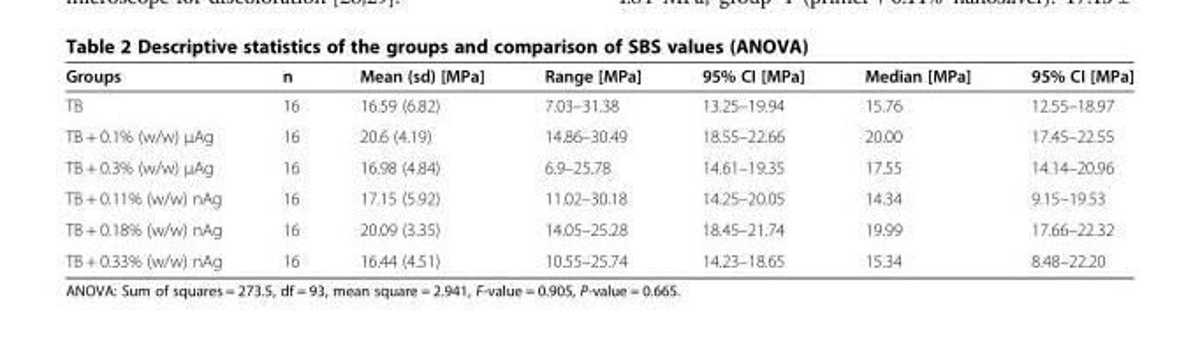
<table><thead><tr><td>Groups</td><td>n</td><td>Mean (sd) [MPa]</td><td>Range [MPa]</td><td>95% CI [MPa]</td><td>Median [MPa]</td><td>95% CI [MPa]</td></tr></thead><tbody><tr><td>TB</td><td>16</td><td>16.59 (6.82)</td><td>7.03–31.38</td><td>13.25–19.94</td><td>15.76</td><td>12.55–18.97</td></tr><tr><td>TB + 0.1% (w/w) μAg</td><td>16</td><td>20.6 (4.19)</td><td>14.86–30.49</td><td>18.55–22.66</td><td>20.00</td><td>17.45–22.55</td></tr><tr><td>TB + 0.3% (w/w) μAg</td><td>16</td><td>16.98 (4.84)</td><td>6.9–25.78</td><td>14.61–19.35</td><td>17.55</td><td>14.14–20.96</td></tr><tr><td>TB + 0.11% (w/w) nAg</td><td>16</td><td>17.15 (5.92)</td><td>11.02–30.18</td><td>14.25–20.05</td><td>14.34</td><td>9.15–19.53</td></tr><tr><td>TB + 0.18% (w/w) nAg</td><td>16</td><td>20.09 (3.35)</td><td>14.05–25.28</td><td>18.45–21.74</td><td>19.99</td><td>17.66–22.32</td></tr><tr><td>TB + 0.33% (w/w) nAg</td><td>16</td><td>16.44 (4.51)</td><td>10.55–25.74</td><td>14.23–18.65</td><td>15.34</td><td>8.48–22.20</td></tr></tbody></table>